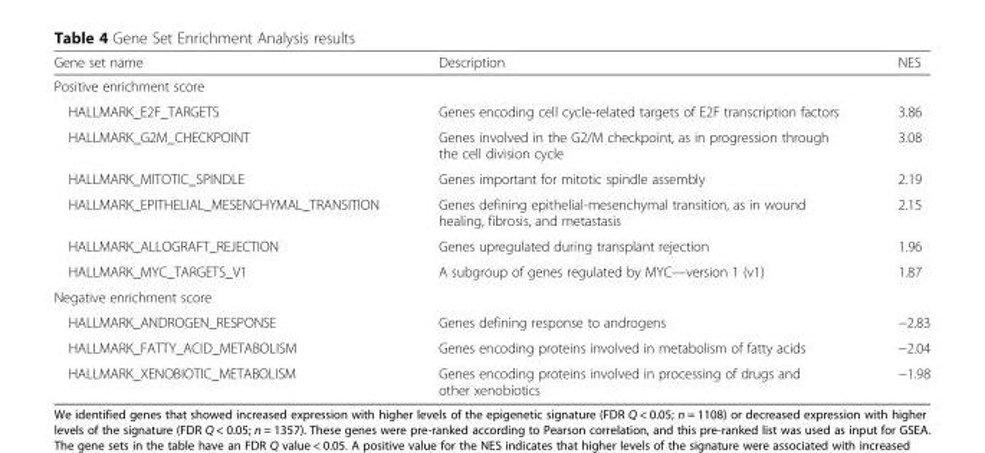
<table><thead><tr><td>Gene set name</td><td>Description</td><td>NES</td></tr></thead><tbody><tr><td colspan="3">Positive enrichment score</td></tr><tr><td>HALLMARK_E2F_TARGETS</td><td>Genes encoding cell cycle-related targets of E2F transcription factors</td><td>3.86</td></tr><tr><td>HALLMARK_G2M_CHECKPOINT</td><td>Genes involved in the G2/M checkpoint, as in progression through the cell division cycle</td><td>3.08</td></tr><tr><td>HALLMARK_MITOTIC_SPINDLE</td><td>Genes important for mitotic spindle assembly</td><td>2.19</td></tr><tr><td>HALLMARK_EPITHELIAL_MESENCHYMAL_TRANSITION</td><td>Genes defining epithelial-mesenchymal transition, as in wound healing, fibrosis, and metastasis</td><td>2.15</td></tr><tr><td>HALLMARK_ALLOGRAFT_REJECTION</td><td>Genes upregulated during transplant rejection</td><td>1.96</td></tr><tr><td>HALLMARK_MYC_TARGETS_V1</td><td>A subgroup of genes regulated by MYC—version 1 (v1)</td><td>1.87</td></tr><tr><td colspan="3">Negative enrichment score</td></tr><tr><td>HALLMARK_ANDROGEN_RESPONSE</td><td>Genes defining response to androgens</td><td>−2.83</td></tr><tr><td>HALLMARK_FATTY_ACID_METABOLISM</td><td>Genes encoding proteins involved in metabolism of fatty acids</td><td>−2.04</td></tr><tr><td>HALLMARK_XENOBIOTIC_METABOLISM</td><td>Genes encoding proteins involved in processing of drugs and other xenobiotics</td><td>−1.98</td></tr></tbody></table>